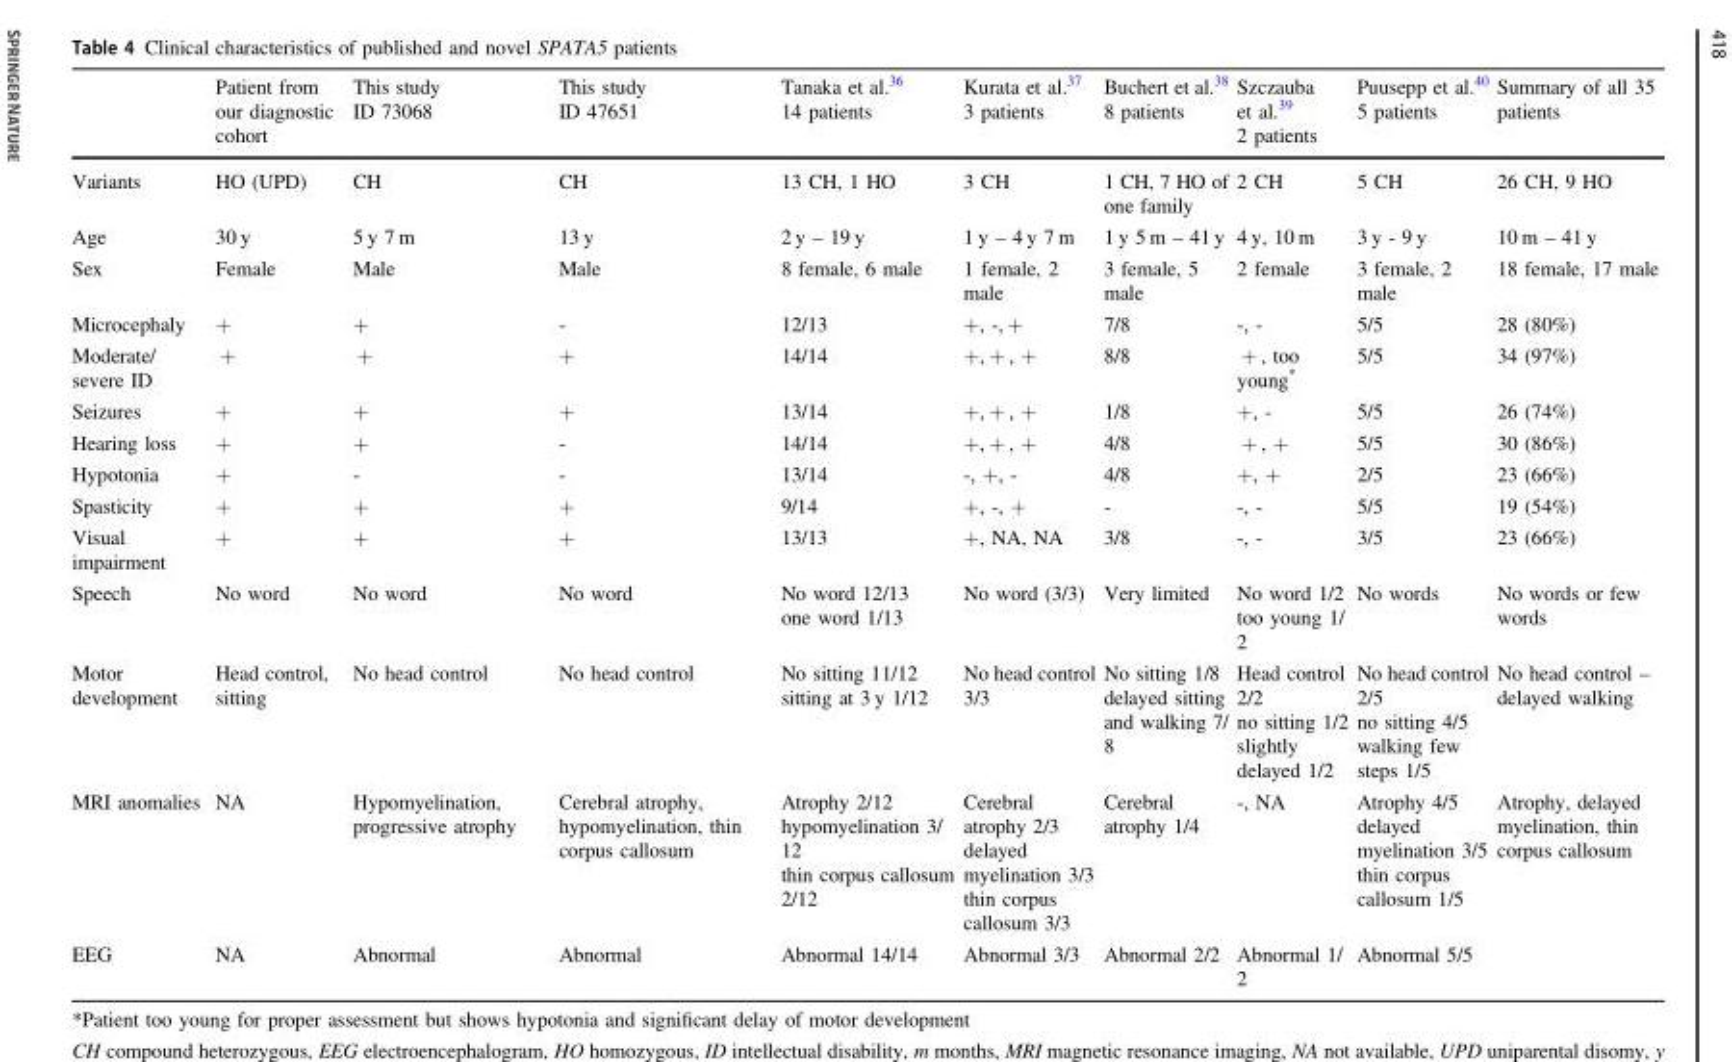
<table><thead><tr><td></td><td>Patient from our diagnostic cohort</td><td>This study ID 73068</td><td>This study ID 47651</td><td>Tanaka et al.<sup>36</sup> 14 patients</td><td>Kurata et al.<sup>37</sup> 3 patients</td><td>Buchert et al.<sup>38</sup> 8 patients</td><td>Szczauba et al.<sup>39</sup> 2 patients</td><td>Puusepp et al.<sup>40</sup> 5 patients</td><td>Summary of all 35 patients</td></tr></thead><tbody><tr><td>Variants</td><td>HO (UPD)</td><td>CH</td><td>CH</td><td>13 CH, 1 HO</td><td>3 CH</td><td>1 CH, 7 HO of one family</td><td>2 CH</td><td>5 CH</td><td>26 CH, 9 HO</td></tr><tr><td>Age</td><td>30 y</td><td>5 y 7 m</td><td>13 y</td><td>2 y – 19 y</td><td>1 y – 4 y 7 m</td><td>1 y 5 m – 41 y</td><td>4 y, 10 m</td><td>3 y - 9 y</td><td>10 m – 41 y</td></tr><tr><td>Sex</td><td>Female</td><td>Male</td><td>Male</td><td>8 female, 6 male</td><td>1 female, 2 male</td><td>3 female, 5 male</td><td>2 female</td><td>3 female, 2 male</td><td>18 female, 17 male</td></tr><tr><td>Microcephaly</td><td>+</td><td>+</td><td>-</td><td>12/13</td><td>+, -, +</td><td>7/8</td><td>-, -</td><td>5/5</td><td>28 (80%)</td></tr><tr><td>Moderate/ severe ID</td><td>+</td><td>+</td><td>+</td><td>14/14</td><td>+, + , +</td><td>8/8</td><td>+ , too young*</td><td>5/5</td><td>34 (97%)</td></tr><tr><td>Seizures</td><td>+</td><td>+</td><td>+</td><td>13/14</td><td>+, + , +</td><td>1/8</td><td>+, -</td><td>5/5</td><td>26 (74%)</td></tr><tr><td>Hearing loss</td><td>+</td><td>+</td><td>-</td><td>14/14</td><td>+, + , +</td><td>4/8</td><td>+ , +</td><td>5/5</td><td>30 (86%)</td></tr><tr><td>Hypotonia</td><td>+</td><td>-</td><td>-</td><td>13/14</td><td>-, +, -</td><td>4/8</td><td>+, +</td><td>2/5</td><td>23 (66%)</td></tr><tr><td>Spasticity</td><td>+</td><td>+</td><td>+</td><td>9/14</td><td>+, -, +</td><td>-</td><td>-, -</td><td>5/5</td><td>19 (54%)</td></tr><tr><td>Visual impairment</td><td>+</td><td>+</td><td>+</td><td>13/13</td><td>+, NA, NA</td><td>3/8</td><td>-, -</td><td>3/5</td><td>23 (66%)</td></tr><tr><td>Speech</td><td>No word</td><td>No word</td><td>No word</td><td>No word 12/13 one word 1/13</td><td>No word (3/3)</td><td>Very limited</td><td>No word 1/2 too young 1/ 2</td><td>No words</td><td>No words or few words</td></tr><tr><td>Motor development</td><td>Head control, sitting</td><td>No head control</td><td>No head control</td><td>No sitting 11/12 sitting at 3 y 1/12</td><td>No head control 3/3</td><td>No sitting 1/8 delayed sitting and walking 7/ 8</td><td>Head control 2/2 no sitting 1/2 slightly delayed 1/2</td><td>No head control 2/5 no sitting 4/5 walking few steps 1/5</td><td>No head control – delayed walking</td></tr><tr><td>MRI anomalies</td><td>NA</td><td>Hypomyelination, progressive atrophy</td><td>Cerebral atrophy, hypomyelination, thin corpus callosum</td><td>Atrophy 2/12 hypomyelination 3/ 12 thin corpus callosum 2/12</td><td>Cerebral atrophy 2/3 delayed myelination 3/3 thin corpus callosum 3/3</td><td>Cerebral atrophy 1/4</td><td>-, NA</td><td>Atrophy 4/5 delayed myelination 3/5 thin corpus callosum 1/5</td><td>Atrophy, delayed myelination, thin corpus callosum</td></tr><tr><td>EEG</td><td>NA</td><td>Abnormal</td><td>Abnormal</td><td>Abnormal 14/14</td><td>Abnormal 3/3</td><td>Abnormal 2/2</td><td>Abnormal 1/ 2</td><td>Abnormal 5/5</td><td></td></tr></tbody></table>